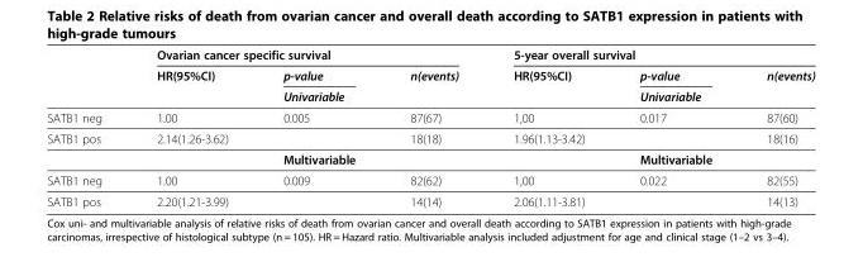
<table><thead><tr><td rowspan="3"></td><td colspan="3">Ovarian cancer specific survival</td><td colspan="3">5-year overall survival</td></tr><tr><td rowspan="2">HR(95%CI)</td><td rowspan="2">p-value Univariable</td><td rowspan="2">n(events)</td><td rowspan="2">HR(95%CI)</td><td rowspan="2">p-value Univariable</td><td rowspan="2">n(events)</td></tr><tr></tr></thead><tbody><tr><td>SATB1 neg</td><td>1.00</td><td>0.005</td><td>87(67)</td><td>1,00</td><td>0.017</td><td>87(60)</td></tr><tr><td rowspan="2">SATB1 pos</td><td>2.14(1.26-3.62)</td><td></td><td>18(18)</td><td>1.96(1.13-3.42)</td><td></td><td>18(16)</td></tr><tr><td></td><td>Multivariable</td><td></td><td></td><td>Multivariable</td><td></td></tr><tr><td>SATB1 neg</td><td>1.00</td><td>0.009</td><td>82(62)</td><td>1,00</td><td>0.022</td><td>82(55)</td></tr><tr><td>SATB1 pos</td><td>2.20(1.21-3.99)</td><td></td><td>14(14)</td><td>2.06(1.11-3.81)</td><td></td><td>14(13)</td></tr></tbody></table>